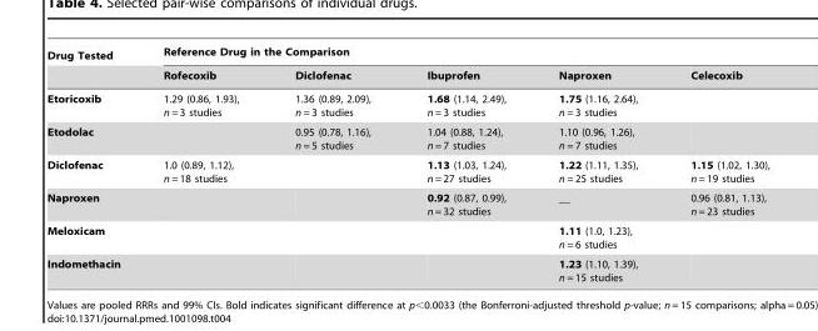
<table><thead><tr><td rowspan="2">Drug Tested</td><td colspan="5">Reference Drug in the Comparison</td></tr><tr><td>Rofecoxib</td><td>Diclofenac</td><td>Ibuprofen</td><td>Naproxen</td><td>Celecoxib</td></tr></thead><tbody><tr><td>Etoricoxib</td><td>1.29 (0.86, 1.93), n = 3 studies</td><td>1.36 (0.89, 2.09), n = 3 studies</td><td>1.68 (1.14, 2.49), n = 3 studies</td><td>1.75 (1.16, 2.64), n = 3 studies</td><td></td></tr><tr><td>Etodolac</td><td></td><td>0.95 (0.78, 1.16), n = 5 studies</td><td>1.04 (0.88, 1.24), n = 7 studies</td><td>1.10 (0.96, 1.26), n = 7 studies</td><td></td></tr><tr><td>Diclofenac</td><td>1.0 (0.89, 1.12), n = 18 studies</td><td></td><td>1.13 (1.03, 1.24), n = 27 studies</td><td>1.22 (1.11, 1.35), n = 25 studies</td><td>1.15 (1.02, 1.30), n = 19 studies</td></tr><tr><td>Naproxen</td><td></td><td></td><td>0.92 (0.87, 0.99), n = 32 studies</td><td>__</td><td>0.96 (0.81, 1.13), n = 23 studies</td></tr><tr><td>Meloxicam</td><td></td><td></td><td></td><td>1.11 (1.0, 1.23), n = 6 studies</td><td></td></tr><tr><td>Indomethacin</td><td></td><td></td><td></td><td>1.23 (1.10, 1.39), n = 15 studies</td><td></td></tr></tbody></table>